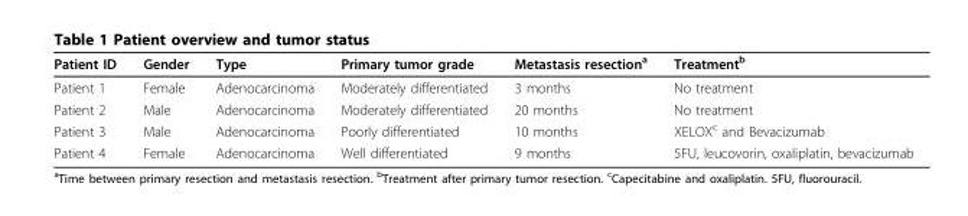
<table><thead><tr><td>Patient ID</td><td>Gender</td><td>Type</td><td>Primary tumor grade</td><td>Metastasis resection<sup>a</sup></td><td>Treatment<sup>b</sup></td></tr></thead><tbody><tr><td>Patient 1</td><td>Female</td><td>Adenocarcinoma</td><td>Moderately differentiated</td><td>3 months</td><td>No treatment</td></tr><tr><td>Patient 2</td><td>Male</td><td>Adenocarcinoma</td><td>Moderately differentiated</td><td>20 months</td><td>No treatment</td></tr><tr><td>Patient 3</td><td>Male</td><td>Adenocarcinoma</td><td>Poorly differentiated</td><td>10 months</td><td>XELOX<sup>c</sup> and Bevacizumab</td></tr><tr><td>Patient 4</td><td>Female</td><td>Adenocarcinoma</td><td>Well differentiated</td><td>9 months</td><td>5FU, leucovorin, oxaliplatin, bevacizumab</td></tr></tbody></table>